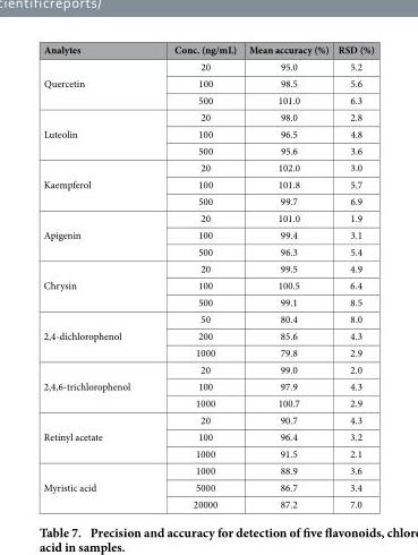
<table><thead><tr><td>Analytes</td><td>Conc. (ng/mL)</td><td>Mean accuracy (%)</td><td>RSD (%)</td></tr></thead><tbody><tr><td rowspan="3">Quercetin</td><td>20</td><td>95.0</td><td>5.2</td></tr><tr><td>100</td><td>98.5</td><td>5.6</td></tr><tr><td>500</td><td>101.0</td><td>6.3</td></tr><tr><td rowspan="3">Luteolin</td><td>20</td><td>98.0</td><td>2.8</td></tr><tr><td>100</td><td>96.5</td><td>4.8</td></tr><tr><td>500</td><td>95.6</td><td>3.6</td></tr><tr><td rowspan="3">Kaempferol</td><td>20</td><td>102.0</td><td>3.0</td></tr><tr><td>100</td><td>101.8</td><td>5.7</td></tr><tr><td>500</td><td>99.7</td><td>6.9</td></tr><tr><td rowspan="3">Apigenin</td><td>20</td><td>101.0</td><td>1.9</td></tr><tr><td>100</td><td>99.4</td><td>3.1</td></tr><tr><td>500</td><td>96.3</td><td>5.4</td></tr><tr><td rowspan="3">Chrysin</td><td>20</td><td>99.5</td><td>4.9</td></tr><tr><td>100</td><td>100.5</td><td>6.4</td></tr><tr><td>500</td><td>99.1</td><td>8.5</td></tr><tr><td rowspan="3">2,4-dichlorophenol</td><td>50</td><td>80.4</td><td>8.0</td></tr><tr><td>200</td><td>85.6</td><td>4.3</td></tr><tr><td>1000</td><td>79.8</td><td>2.9</td></tr><tr><td rowspan="3">2,4,6-trichlorophenol</td><td>20</td><td>99.0</td><td>2.0</td></tr><tr><td>100</td><td>97.9</td><td>4.3</td></tr><tr><td>1000</td><td>100.7</td><td>2.9</td></tr><tr><td rowspan="3">Retinyl acetate</td><td>20</td><td>90.7</td><td>4.3</td></tr><tr><td>100</td><td>96.4</td><td>3.2</td></tr><tr><td>1000</td><td>91.5</td><td>2.1</td></tr><tr><td rowspan="3">Myristic acid</td><td>1000</td><td>88.9</td><td>3.6</td></tr><tr><td>5000</td><td>86.7</td><td>3.4</td></tr><tr><td>20000</td><td>87.2</td><td>7.0</td></tr></tbody></table>